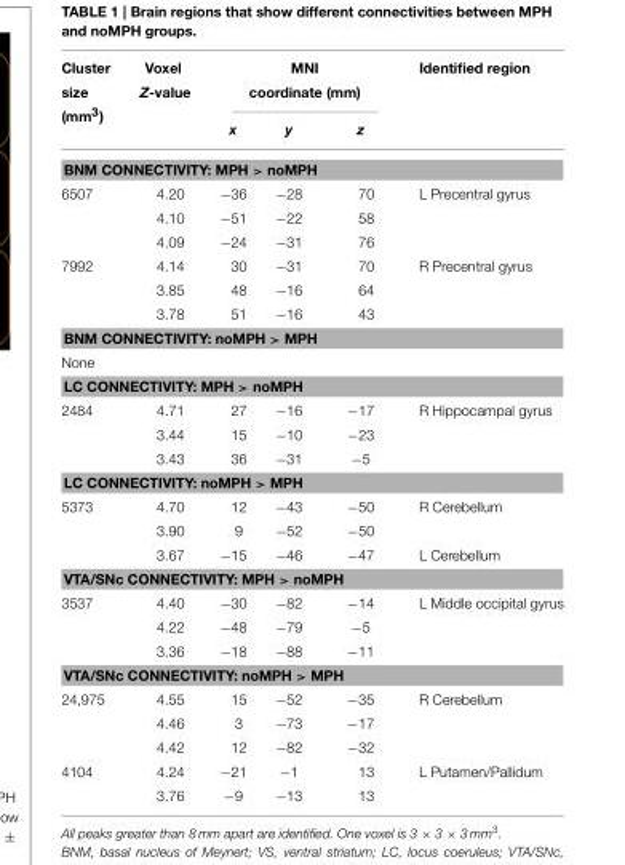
<table><thead><tr><td rowspan="2">Cluster size (mm<sup>3</sup>)</td><td rowspan="2">Voxel Z-value</td><td colspan="3">MNI coordinate (mm)</td><td rowspan="2">Identified region</td></tr><tr><td>x</td><td>y</td><td>z</td></tr></thead><tbody><tr><td colspan="6">BNM CONNECTIVITY: MPH &gt; noMPH</td></tr><tr><td rowspan="3">6507</td><td>4.20</td><td>−36</td><td>−28</td><td>70</td><td>L Precentral gyrus</td></tr><tr><td>4.10</td><td>−51</td><td>−22</td><td>58</td><td></td></tr><tr><td>4.09</td><td>−24</td><td>−31</td><td>76</td><td></td></tr><tr><td rowspan="3">7992</td><td>4.14</td><td>30</td><td>−31</td><td>70</td><td>R Precentral gyrus</td></tr><tr><td>3.85</td><td>48</td><td>−16</td><td>64</td><td></td></tr><tr><td>3.78</td><td>51</td><td>−16</td><td>43</td><td></td></tr><tr><td colspan="6">BNM CONNECTIVITY: noMPH &gt; MPH</td></tr><tr><td colspan="6">None</td></tr><tr><td colspan="6">LC CONNECTIVITY: MPH &gt; noMPH</td></tr><tr><td rowspan="3">2484</td><td>4.71</td><td>27</td><td>−16</td><td>−17</td><td>R Hippocampal gyrus</td></tr><tr><td>3.44</td><td>15</td><td>−10</td><td>−23</td><td></td></tr><tr><td>3.43</td><td>36</td><td>−31</td><td>−5</td><td></td></tr><tr><td colspan="6">LC CONNECTIVITY: noMPH &gt; MPH</td></tr><tr><td rowspan="3">5373</td><td>4.70</td><td>12</td><td>−43</td><td>−50</td><td>R Cerebellum</td></tr><tr><td>3.90</td><td>9</td><td>−52</td><td>−50</td><td></td></tr><tr><td>3.67</td><td>−15</td><td>−46</td><td>−47</td><td>L Cerebellum</td></tr><tr><td colspan="6">VTA/SNc CONNECTIVITY: MPH &gt; noMPH</td></tr><tr><td rowspan="3">3537</td><td>4.40</td><td>−30</td><td>−82</td><td>−14</td><td>L Middle occipital gyrus</td></tr><tr><td>4.22</td><td>−48</td><td>−79</td><td>−5</td><td></td></tr><tr><td>3.36</td><td>−18</td><td>−88</td><td>−11</td><td></td></tr><tr><td colspan="6">VTA/SNc CONNECTIVITY: noMPH &gt; MPH</td></tr><tr><td rowspan="3">24,975</td><td>4.55</td><td>15</td><td>−52</td><td>−35</td><td>R Cerebellum</td></tr><tr><td>4.46</td><td>3</td><td>−73</td><td>−17</td><td></td></tr><tr><td>4.42</td><td>12</td><td>−82</td><td>−32</td><td></td></tr><tr><td rowspan="2">4104</td><td>4.24</td><td>−21</td><td>−1</td><td>13</td><td>L Putamen/Pallidum</td></tr><tr><td>3.76</td><td>−9</td><td>−13</td><td>13</td><td></td></tr></tbody></table>